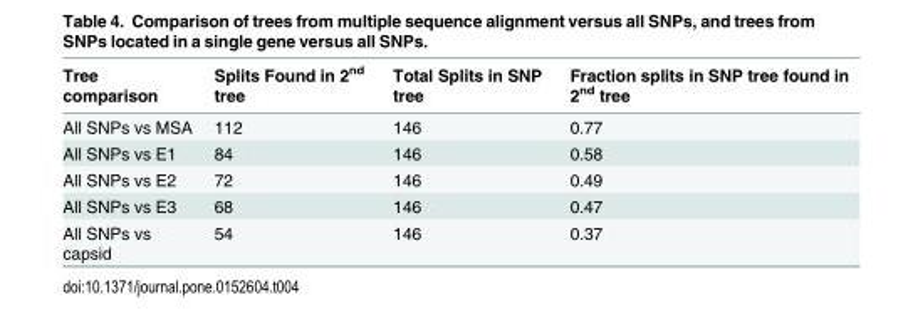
<table><thead><tr><td>Tree comparison</td><td>Splits Found in 2<sup>nd</sup> tree</td><td>Total Splits in SNP tree</td><td>Fraction splits in SNP tree found in 2<sup>nd</sup> tree</td></tr></thead><tbody><tr><td>All SNPs vs MSA</td><td>112</td><td>146</td><td>0.77</td></tr><tr><td>All SNPs vs E1</td><td>84</td><td>146</td><td>0.58</td></tr><tr><td>All SNPs vs E2</td><td>72</td><td>146</td><td>0.49</td></tr><tr><td>All SNPs vs E3</td><td>68</td><td>146</td><td>0.47</td></tr><tr><td>All SNPs vs capsid</td><td>54</td><td>146</td><td>0.37</td></tr></tbody></table>